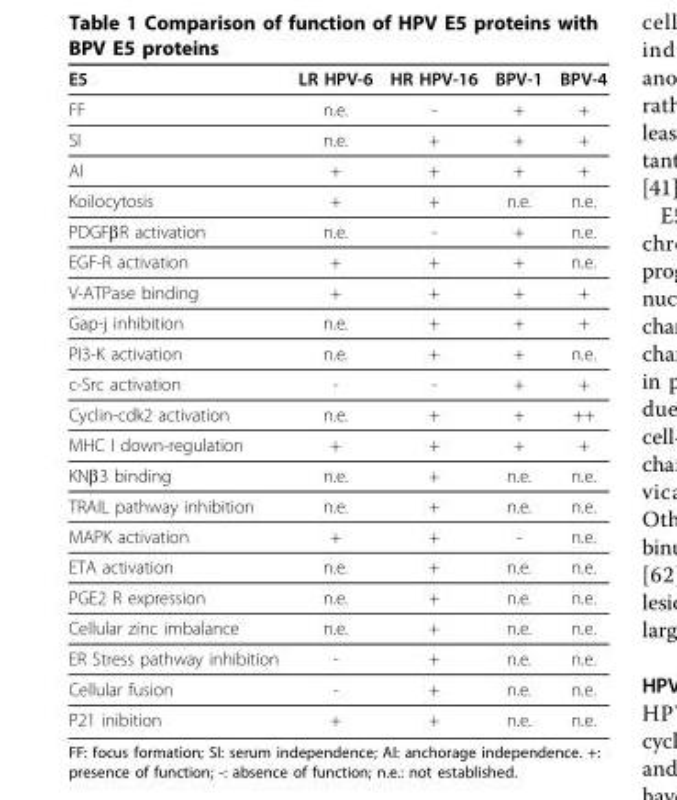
<table><thead><tr><td>E5</td><td>LR HPV-6</td><td>HR HPV-16</td><td>BPV-1</td><td>BPV-4</td></tr></thead><tbody><tr><td>FF</td><td>n.e.</td><td>-</td><td>+</td><td>+</td></tr><tr><td>SI</td><td>n.e.</td><td>+</td><td>+</td><td>+</td></tr><tr><td>AI</td><td>+</td><td>+</td><td>+</td><td>+</td></tr><tr><td>Koilocytosis</td><td>+</td><td>+</td><td>n.e.</td><td>n.e.</td></tr><tr><td>PDGFβR activation</td><td>n.e.</td><td>-</td><td>+</td><td>n.e.</td></tr><tr><td>EGF-R activation</td><td>+</td><td>+</td><td>+</td><td>n.e.</td></tr><tr><td>V-ATPase binding</td><td>+</td><td>+</td><td>+</td><td>+</td></tr><tr><td>Gap-j inhibition</td><td>n.e.</td><td>+</td><td>+</td><td>+</td></tr><tr><td>PI3-K activation</td><td>n.e.</td><td>+</td><td>+</td><td>n.e.</td></tr><tr><td>c-Src activation</td><td>-</td><td>-</td><td>+</td><td>+</td></tr><tr><td>Cyclin-cdk2 activation</td><td>n.e.</td><td>+</td><td>+</td><td>++</td></tr><tr><td>MHC I down-regulation</td><td>+</td><td>+</td><td>+</td><td>+</td></tr><tr><td>KNβ3 binding</td><td>n.e.</td><td>+</td><td>n.e.</td><td>n.e.</td></tr><tr><td>TRAIL pathway inhibition</td><td>n.e.</td><td>+</td><td>n.e.</td><td>n.e.</td></tr><tr><td>MAPK activation</td><td>+</td><td>+</td><td>-</td><td>n.e.</td></tr><tr><td>ETA activation</td><td>n.e.</td><td>+</td><td>n.e.</td><td>n.e.</td></tr><tr><td>PGE2 R expression</td><td>n.e.</td><td>+</td><td>n.e.</td><td>n.e.</td></tr><tr><td>Cellular zinc imbalance</td><td>n.e.</td><td>+</td><td>n.e.</td><td>n.e.</td></tr><tr><td>ER Stress pathway inhibition</td><td>-</td><td>+</td><td>n.e.</td><td>n.e.</td></tr><tr><td>Cellular fusion</td><td>-</td><td>+</td><td>n.e.</td><td>n.e.</td></tr><tr><td>P21 inibition</td><td>+</td><td>+</td><td>n.e.</td><td>n.e.</td></tr></tbody></table>